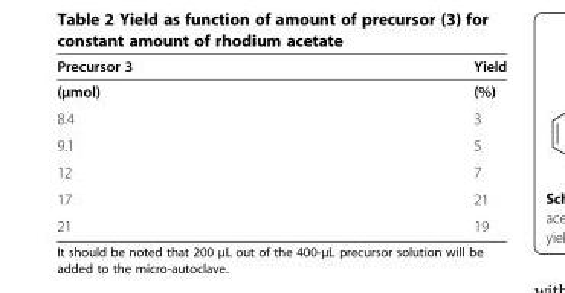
<table><thead><tr><td>Precursor 3</td><td>Yield</td></tr></thead><tbody><tr><td>(μmol)</td><td>(%)</td></tr><tr><td>8.4</td><td>3</td></tr><tr><td>9.1</td><td>5</td></tr><tr><td>12</td><td>7</td></tr><tr><td>17</td><td>21</td></tr><tr><td>21</td><td>19</td></tr></tbody></table>